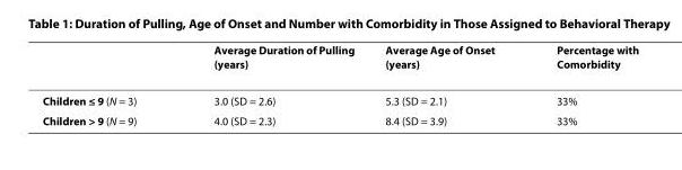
<table><thead><tr><td></td><td>Average Duration of Pulling (years)</td><td>Average Age of Onset (years)</td><td>Percentage with Comorbidity</td></tr></thead><tbody><tr><td>Children ≤ 9 (N = 3)</td><td>3.0 (SD = 2.6)</td><td>5.3 (SD = 2.1)</td><td>33%</td></tr><tr><td>Children &gt; 9 (N = 9)</td><td>4.0 (SD = 2.3)</td><td>8.4 (SD = 3.9)</td><td>33%</td></tr></tbody></table>